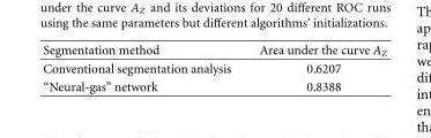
<table><thead><tr><td>Segmentation method</td><td>Area under the curve A<sub>Z</sub></td></tr></thead><tbody><tr><td>Conventional segmentation analysis</td><td>0.6207</td></tr><tr><td>“Neural-gas” network</td><td>0.8388</td></tr></tbody></table>